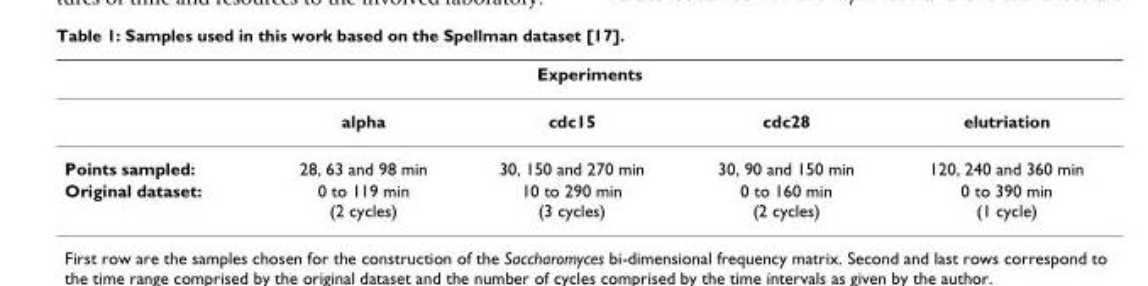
<table><thead><tr><td colspan="5">Experiments</td></tr><tr><td></td><td>alpha</td><td>cdc15</td><td>cdc28</td><td>elutriation</td></tr></thead><tbody><tr><td>Points sampled:</td><td>28, 63 and 98 min</td><td>30, 150 and 270 min</td><td>30, 90 and 150 min</td><td>120, 240 and 360 min</td></tr><tr><td>Original dataset:</td><td>0 to 119 min (2 cycles)</td><td>10 to 290 min (3 cycles)</td><td>0 to 160 min (2 cycles)</td><td>0 to 390 min (1 cycle)</td></tr></tbody></table>